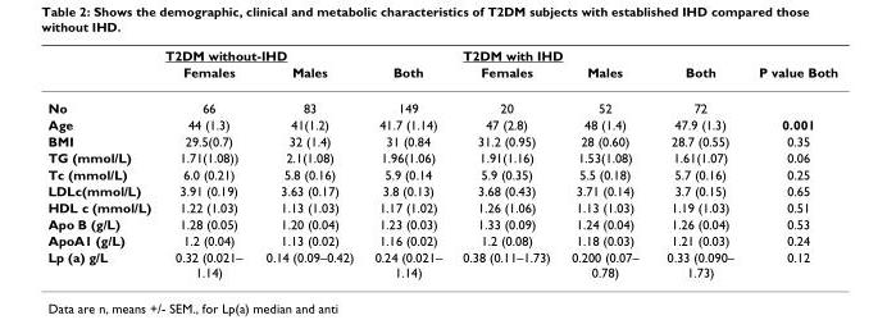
<table><thead><tr><td rowspan="2"></td><td colspan="3">T2DM without-IHD</td><td colspan="3">T2DM with IHD</td><td rowspan="2">P value Both</td></tr><tr><td>Females</td><td>Males</td><td>Both</td><td>Females</td><td>Males</td><td>Both</td></tr></thead><tbody><tr><td>No</td><td>66</td><td>83</td><td>149</td><td>20</td><td>52</td><td>72</td><td></td></tr><tr><td>Age</td><td>44 (1.3)</td><td>41(1.2)</td><td>41.7 (1.14)</td><td>47 (2.8)</td><td>48 (1.4)</td><td>47.9 (1.3)</td><td>0.001</td></tr><tr><td>BMI</td><td>29.5(0.7)</td><td>32 (1.4)</td><td>31 (0.84</td><td>31.2 (0.95)</td><td>28 (0.60)</td><td>28.7 (0.55)</td><td>0.35</td></tr><tr><td>TG (mmol/L)</td><td>1.71(1.08))</td><td>2.1(1.08)</td><td>1.96(1.06)</td><td>1.91(1.16)</td><td>1.53(1.08)</td><td>1.61(1.07)</td><td>0.06</td></tr><tr><td>Tc (mmol/L)</td><td>6.0 (0.21)</td><td>5.8 (0.16)</td><td>5.9 (0.14</td><td>5.9 (0.35)</td><td>5.5 (0.18)</td><td>5.7 (0.16)</td><td>0.25</td></tr><tr><td>LDLc(mmol/L)</td><td>3.91 (0.19)</td><td>3.63 (0.17)</td><td>3.8 (0.13)</td><td>3.68 (0.43)</td><td>3.71 (0.14)</td><td>3.7 (0.15)</td><td>0.65</td></tr><tr><td>HDL c (mmol/L)</td><td>1.22 (1.03)</td><td>1.13 (1.03)</td><td>1.17 (1.02)</td><td>1.26 (1.06)</td><td>1.13 (1.03)</td><td>1.19 (1.03)</td><td>0.51</td></tr><tr><td>Apo B (g/L)</td><td>1.28 (0.05)</td><td>1.20 (0.04)</td><td>1.23 (0.03)</td><td>1.33 (0.09)</td><td>1.24 (0.04)</td><td>1.26 (0.04)</td><td>0.53</td></tr><tr><td>ApoA1 (g/L)</td><td>1.2 (0.04)</td><td>1.13 (0.02)</td><td>1.16 (0.02)</td><td>1.2 (0.08)</td><td>1.18 (0.03)</td><td>1.21 (0.03)</td><td>0.24</td></tr><tr><td>Lp (a) g/L</td><td>0.32 (0.021– 1.14)</td><td>0.14 (0.09–0.42)</td><td>0.24 (0.021– 1.14)</td><td>0.38 (0.11–1.73)</td><td>0.200 (0.07– 0.78)</td><td>0.33 (0.090– 1.73)</td><td>0.12</td></tr></tbody></table>